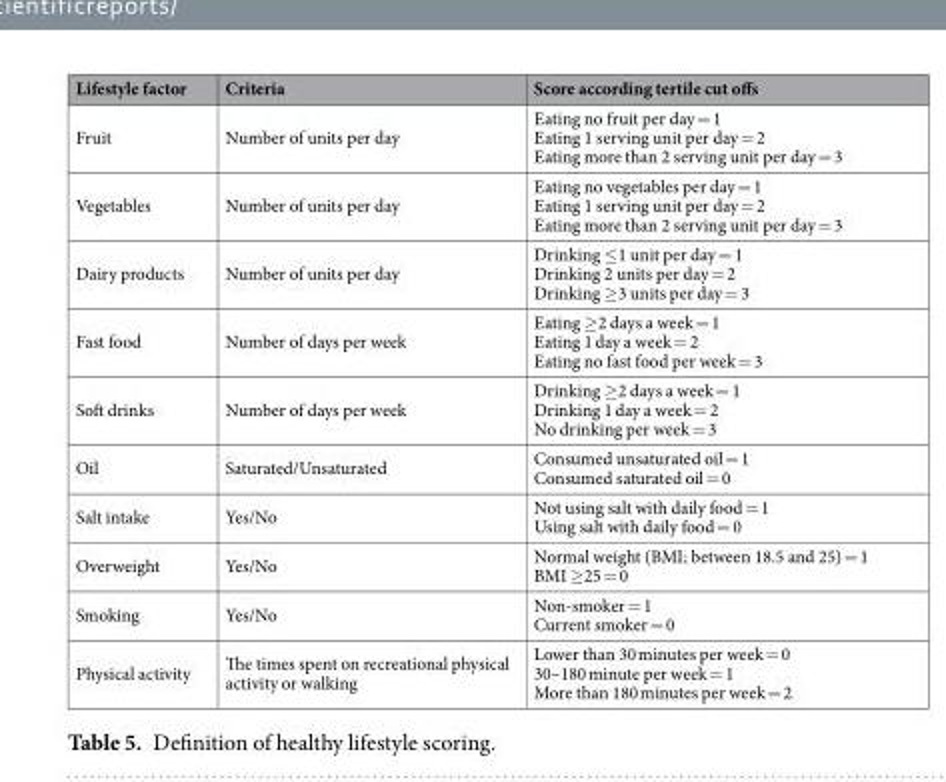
<table><thead><tr><td>Lifestyle factor</td><td>Criteria</td><td>Score according tertile cut offs</td></tr></thead><tbody><tr><td>Fruit</td><td>Number of units per day</td><td>Eating no fruit per day = 1 Eating 1 serving unit per day = 2 Eating more than 2 serving unit per day = 3</td></tr><tr><td>Vegetables</td><td>Number of units per day</td><td>Eating no vegetables per day = 1 Eating 1 serving unit per day = 2 Eating more than 2 serving unit per day = 3</td></tr><tr><td>Dairy products</td><td>Number of units per day</td><td>Drinking ≤1 unit per day = 1 Drinking 2 units per day = 2 Drinking ≥3 units per day = 3</td></tr><tr><td>Fast food</td><td>Number of days per week</td><td>Eating ≥2 days a week = 1 Eating 1 day a week = 2 Eating no fast food per week = 3</td></tr><tr><td>Soft drinks</td><td>Number of days per week</td><td>Drinking ≥2 days a week = 1 Drinking 1 day a week = 2 No drinking per week = 3</td></tr><tr><td>Oil</td><td>Saturated/Unsaturated</td><td>Consumed unsaturated oil = 1 Consumed saturated oil = 0</td></tr><tr><td>Salt intake</td><td>Yes/No</td><td>Not using salt with daily food = 1 Using salt with daily food = 0</td></tr><tr><td>Overweight</td><td>Yes/No</td><td>Normal weight (BMI; between 18.5 and 25) = 1 BMI ≥25 = 0</td></tr><tr><td>Smoking</td><td>Yes/No</td><td>Non-smoker = 1 Current smoker = 0</td></tr><tr><td>Physical activity</td><td>The times spent on recreational physical activity or walking</td><td>Lower than 30 minutes per week = 0 30–180 minute per week = 1 More than 180 minutes per week = 2</td></tr></tbody></table>